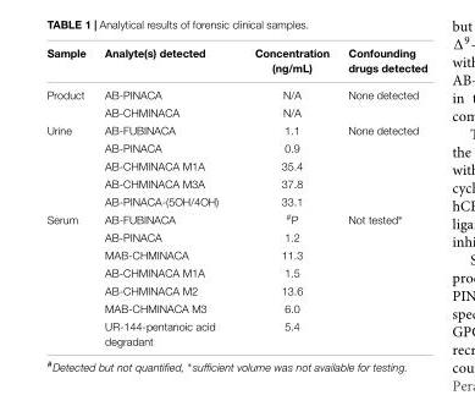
<table><thead><tr><td>Sample</td><td>Analyte(s) detected</td><td>Concentration (ng/mL)</td><td>Confounding drugs detected</td></tr></thead><tbody><tr><td rowspan="2">Product</td><td>AB-PINACA</td><td>N/A</td><td>None detected</td></tr><tr><td>AB-CHMINACA</td><td>N/A</td><td></td></tr><tr><td rowspan="5">Urine</td><td>AB-FUBINACA</td><td>1.1</td><td>None detected</td></tr><tr><td>AB-PINACA</td><td>0.9</td><td></td></tr><tr><td>AB-CHMINACA M1A</td><td>35.4</td><td></td></tr><tr><td>AB-CHMINACA M3A</td><td>37.8</td><td></td></tr><tr><td>AB-PINACA-(5OH/4OH)</td><td>33.1</td><td></td></tr><tr><td rowspan="7">Serum</td><td>AB-FUBINACA</td><td><sup>#</sup>P</td><td>Not tested∗</td></tr><tr><td>AB-PINACA</td><td>1.2</td><td></td></tr><tr><td>MAB-CHMINACA</td><td>11.3</td><td></td></tr><tr><td>AB-CHMINACA M1A</td><td>1.5</td><td></td></tr><tr><td>AB-CHMINACA M2</td><td>13.6</td><td></td></tr><tr><td>MAB-CHMINACA M3</td><td>6.0</td><td></td></tr><tr><td>UR-144-pentanoic acid degradant</td><td>5.4</td><td></td></tr></tbody></table>